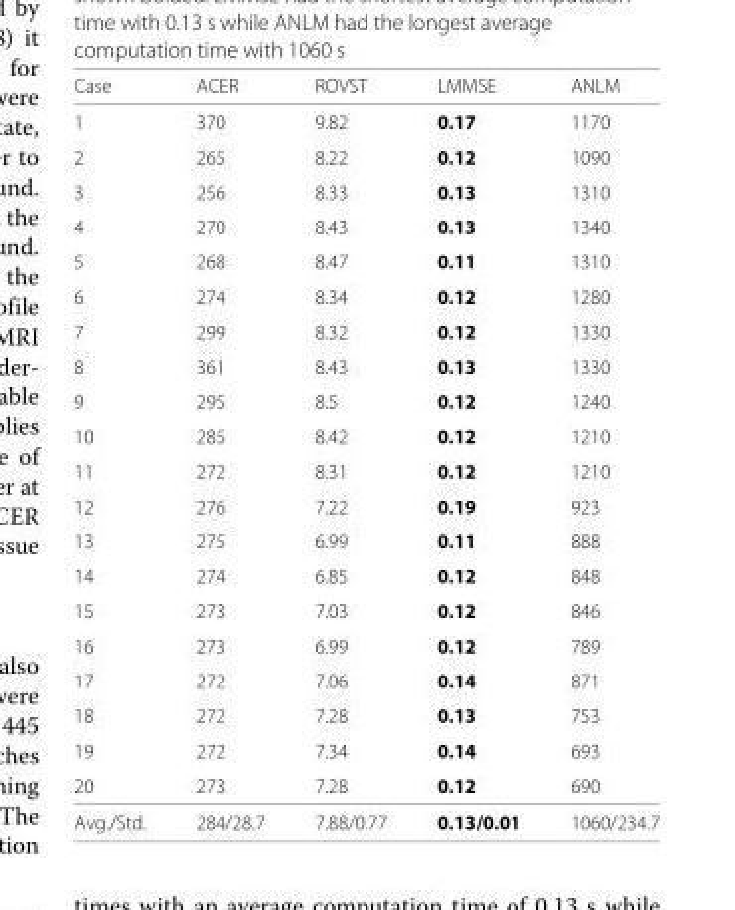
<table><thead><tr><td>Case</td><td>ACER</td><td>ROVST</td><td>LMMSE</td><td>ANLM</td></tr></thead><tbody><tr><td>1</td><td>370</td><td>9.82</td><td>0.17</td><td>1170</td></tr><tr><td>2</td><td>265</td><td>8.22</td><td>0.12</td><td>1090</td></tr><tr><td>3</td><td>256</td><td>8.33</td><td>0.13</td><td>1310</td></tr><tr><td>4</td><td>270</td><td>8.43</td><td>0.13</td><td>1340</td></tr><tr><td>5</td><td>268</td><td>8.47</td><td>0.11</td><td>1310</td></tr><tr><td>6</td><td>274</td><td>8.34</td><td>0.12</td><td>1280</td></tr><tr><td>7</td><td>299</td><td>8.32</td><td>0.12</td><td>1330</td></tr><tr><td>8</td><td>361</td><td>8.43</td><td>0.13</td><td>1330</td></tr><tr><td>9</td><td>295</td><td>8.5</td><td>0.12</td><td>1240</td></tr><tr><td>10</td><td>285</td><td>8.42</td><td>0.12</td><td>1210</td></tr><tr><td>11</td><td>272</td><td>8.31</td><td>0.12</td><td>1210</td></tr><tr><td>12</td><td>276</td><td>7.22</td><td>0.19</td><td>923</td></tr><tr><td>13</td><td>275</td><td>6.99</td><td>0.11</td><td>888</td></tr><tr><td>14</td><td>274</td><td>6.85</td><td>0.12</td><td>848</td></tr><tr><td>15</td><td>273</td><td>7.03</td><td>0.12</td><td>846</td></tr><tr><td>16</td><td>273</td><td>6.99</td><td>0.12</td><td>789</td></tr><tr><td>17</td><td>272</td><td>7.06</td><td>0.14</td><td>871</td></tr><tr><td>18</td><td>272</td><td>7.28</td><td>0.13</td><td>753</td></tr><tr><td>19</td><td>272</td><td>7.34</td><td>0.14</td><td>693</td></tr><tr><td>20</td><td>273</td><td>7.28</td><td>0.12</td><td>690</td></tr><tr><td>Avg./Std.</td><td>284/28.7</td><td>7.88/0.77</td><td>0.13/0.01</td><td>1060/234.7</td></tr></tbody></table>